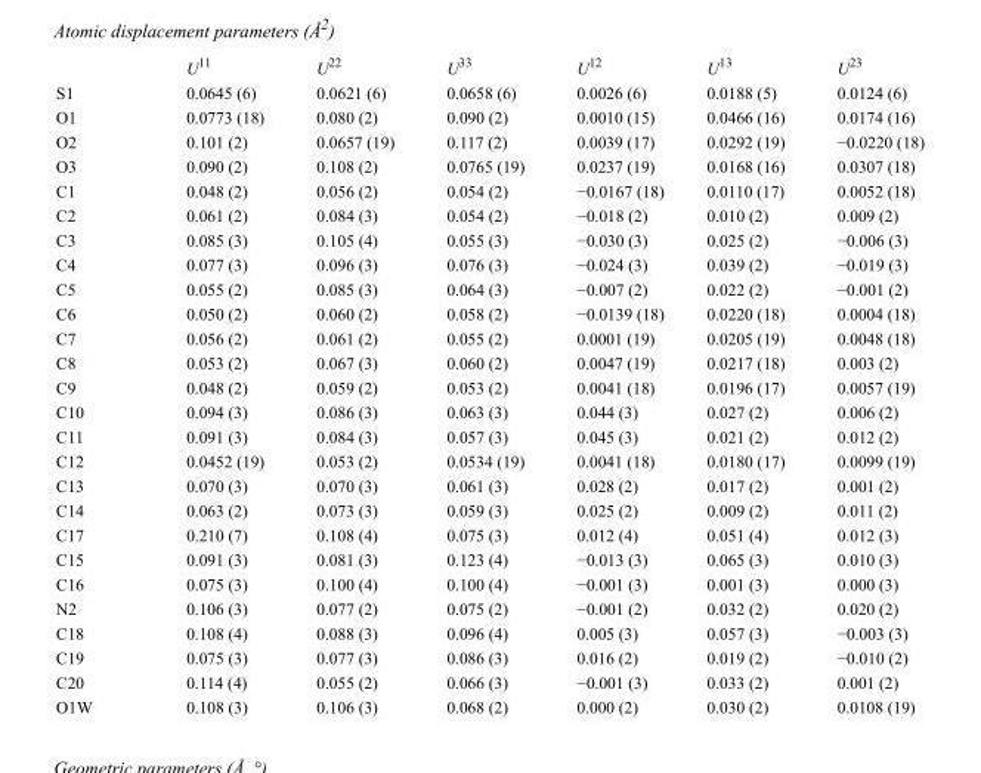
<table><thead><tr><td></td><td>U<sup>11</sup></td><td>U<sup>22</sup></td><td>U<sup>33</sup></td><td>U<sup>12</sup></td><td>U<sup>13</sup></td><td>U<sup>23</sup></td></tr></thead><tbody><tr><td>S1</td><td>0.0645 (6)</td><td>0.0621 (6)</td><td>0.0658 (6)</td><td>0.0026 (6)</td><td>0.0188 (5)</td><td>0.0124 (6)</td></tr><tr><td>O1</td><td>0.0773 (18)</td><td>0.080 (2)</td><td>0.090 (2)</td><td>0.0010 (15)</td><td>0.0466 (16)</td><td>0.0174 (16)</td></tr><tr><td>O2</td><td>0.101 (2)</td><td>0.0657 (19)</td><td>0.117 (2)</td><td>0.0039 (17)</td><td>0.0292 (19)</td><td>−0.0220 (18)</td></tr><tr><td>O3</td><td>0.090 (2)</td><td>0.108 (2)</td><td>0.0765 (19)</td><td>0.0237 (19)</td><td>0.0168 (16)</td><td>0.0307 (18)</td></tr><tr><td>C1</td><td>0.048 (2)</td><td>0.056 (2)</td><td>0.054 (2)</td><td>−0.0167 (18)</td><td>0.0110 (17)</td><td>0.0052 (18)</td></tr><tr><td>C2</td><td>0.061 (2)</td><td>0.084 (3)</td><td>0.054 (2)</td><td>−0.018 (2)</td><td>0.010 (2)</td><td>0.009 (2)</td></tr><tr><td>C3</td><td>0.085 (3)</td><td>0.105 (4)</td><td>0.055 (3)</td><td>−0.030 (3)</td><td>0.025 (2)</td><td>−0.006 (3)</td></tr><tr><td>C4</td><td>0.077 (3)</td><td>0.096 (3)</td><td>0.076 (3)</td><td>−0.024 (3)</td><td>0.039 (2)</td><td>−0.019 (3)</td></tr><tr><td>C5</td><td>0.055 (2)</td><td>0.085 (3)</td><td>0.064 (3)</td><td>−0.007 (2)</td><td>0.022 (2)</td><td>−0.001 (2)</td></tr><tr><td>C6</td><td>0.050 (2)</td><td>0.060 (2)</td><td>0.058 (2)</td><td>−0.0139 (18)</td><td>0.0220 (18)</td><td>0.0004 (18)</td></tr><tr><td>C7</td><td>0.056 (2)</td><td>0.061 (2)</td><td>0.055 (2)</td><td>0.0001 (19)</td><td>0.0205 (19)</td><td>0.0048 (18)</td></tr><tr><td>C8</td><td>0.053 (2)</td><td>0.067 (3)</td><td>0.060 (2)</td><td>0.0047 (19)</td><td>0.0217 (18)</td><td>0.003 (2)</td></tr><tr><td>C9</td><td>0.048 (2)</td><td>0.059 (2)</td><td>0.053 (2)</td><td>0.0041 (18)</td><td>0.0196 (17)</td><td>0.0057 (19)</td></tr><tr><td>C10</td><td>0.094 (3)</td><td>0.086 (3)</td><td>0.063 (3)</td><td>0.044 (3)</td><td>0.027 (2)</td><td>0.006 (2)</td></tr><tr><td>C11</td><td>0.091 (3)</td><td>0.084 (3)</td><td>0.057 (3)</td><td>0.045 (3)</td><td>0.021 (2)</td><td>0.012 (2)</td></tr><tr><td>C12</td><td>0.0452 (19)</td><td>0.053 (2)</td><td>0.0534 (19)</td><td>0.0041 (18)</td><td>0.0180 (17)</td><td>0.0099 (19)</td></tr><tr><td>C13</td><td>0.070 (3)</td><td>0.070 (3)</td><td>0.061 (3)</td><td>0.028 (2)</td><td>0.017 (2)</td><td>0.001 (2)</td></tr><tr><td>C14</td><td>0.063 (2)</td><td>0.073 (3)</td><td>0.059 (3)</td><td>0.025 (2)</td><td>0.009 (2)</td><td>0.011 (2)</td></tr><tr><td>C17</td><td>0.210 (7)</td><td>0.108 (4)</td><td>0.075 (3)</td><td>0.012 (4)</td><td>0.051 (4)</td><td>0.012 (3)</td></tr><tr><td>C15</td><td>0.091 (3)</td><td>0.081 (3)</td><td>0.123 (4)</td><td>−0.013 (3)</td><td>0.065 (3)</td><td>0.010 (3)</td></tr><tr><td>C16</td><td>0.075 (3)</td><td>0.100 (4)</td><td>0.100 (4)</td><td>−0.001 (3)</td><td>0.001 (3)</td><td>0.000 (3)</td></tr><tr><td>N2</td><td>0.106 (3)</td><td>0.077 (2)</td><td>0.075 (2)</td><td>−0.001 (2)</td><td>0.032 (2)</td><td>0.020 (2)</td></tr><tr><td>C18</td><td>0.108 (4)</td><td>0.088 (3)</td><td>0.096 (4)</td><td>0.005 (3)</td><td>0.057 (3)</td><td>−0.003 (3)</td></tr><tr><td>C19</td><td>0.075 (3)</td><td>0.077 (3)</td><td>0.086 (3)</td><td>0.016 (2)</td><td>0.019 (2)</td><td>−0.010 (2)</td></tr><tr><td>C20</td><td>0.114 (4)</td><td>0.055 (2)</td><td>0.066 (3)</td><td>−0.001 (3)</td><td>0.033 (2)</td><td>0.001 (2)</td></tr><tr><td>O1W</td><td>0.108 (3)</td><td>0.106 (3)</td><td>0.068 (2)</td><td>0.000 (2)</td><td>0.030 (2)</td><td>0.0108 (19)</td></tr></tbody></table>